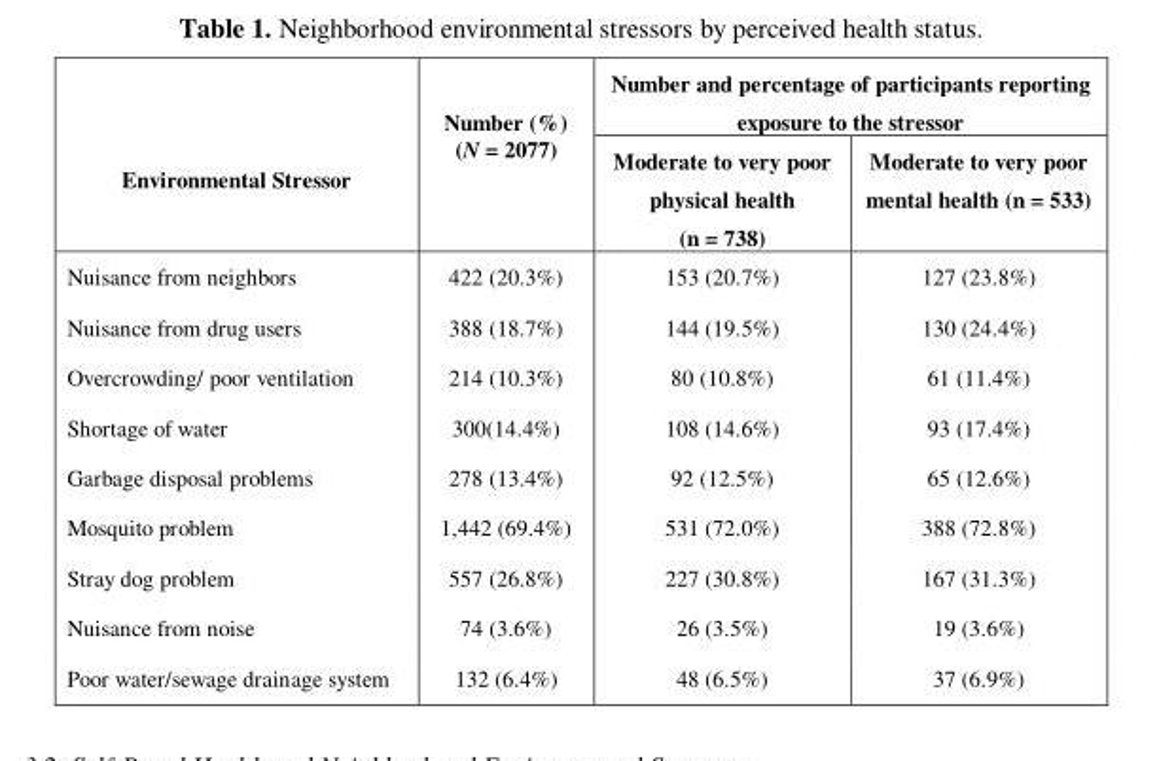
<table><thead><tr><td rowspan="2">Environmental Stressor</td><td rowspan="2">Number (%) (N = 2077)</td><td colspan="2">Number and percentage of participants reporting exposure to the stressor</td></tr><tr><td>Moderate to very poor physical health (n = 738)</td><td>Moderate to very poor mental health (n = 533)</td></tr></thead><tbody><tr><td>Nuisance from neighbors</td><td>422 (20.3%)</td><td>153 (20.7%)</td><td>127 (23.8%)</td></tr><tr><td>Nuisance from drug users</td><td>388 (18.7%)</td><td>144 (19.5%)</td><td>130 (24.4%)</td></tr><tr><td>Overcrowding/ poor ventilation</td><td>214 (10.3%)</td><td>80 (10.8%)</td><td>61 (11.4%)</td></tr><tr><td>Shortage of water</td><td>300(14.4%)</td><td>108 (14.6%)</td><td>93 (17.4%)</td></tr><tr><td>Garbage disposal problems</td><td>278 (13.4%)</td><td>92 (12.5%)</td><td>65 (12.6%)</td></tr><tr><td>Mosquito problem</td><td>1,442 (69.4%)</td><td>531 (72.0%)</td><td>388 (72.8%)</td></tr><tr><td>Stray dog problem</td><td>557 (26.8%)</td><td>227 (30.8%)</td><td>167 (31.3%)</td></tr><tr><td>Nuisance from noise</td><td>74 (3.6%)</td><td>26 (3.5%)</td><td>19 (3.6%)</td></tr><tr><td>Poor water/sewage drainage system</td><td>132 (6.4%)</td><td>48 (6.5%)</td><td>37 (6.9%)</td></tr></tbody></table>